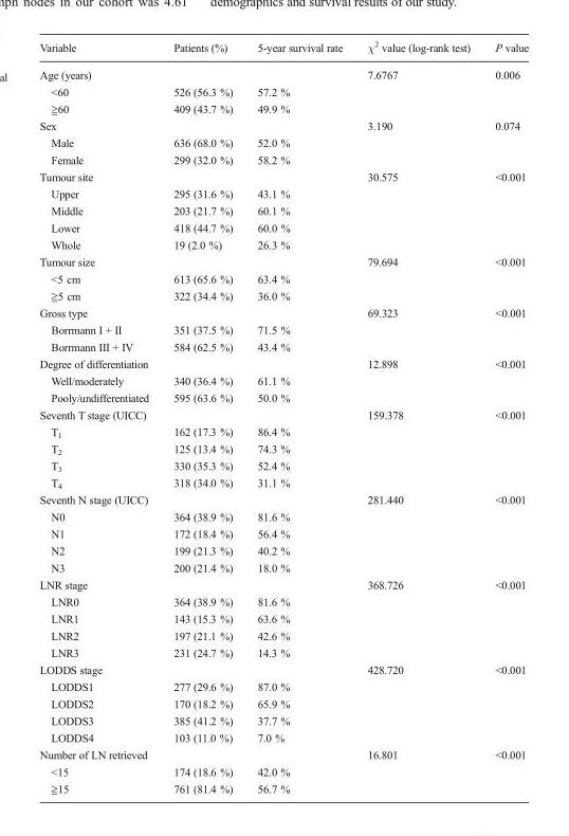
<table><thead><tr><td>Variable</td><td>Patients (%)</td><td>5-year survival rate</td><td>χ<sup>2</sup> value (log-rank test)</td><td>P value</td></tr></thead><tbody><tr><td>Age (years)</td><td></td><td></td><td>7.6767</td><td>0.006</td></tr><tr><td>&lt;60</td><td>526 (56.3 %)</td><td>57.2 %</td><td></td><td></td></tr><tr><td>≧60</td><td>409 (43.7 %)</td><td>49.9 %</td><td></td><td></td></tr><tr><td>Sex</td><td></td><td></td><td>3.190</td><td>0.074</td></tr><tr><td>Male</td><td>636 (68.0 %)</td><td>52.0 %</td><td></td><td></td></tr><tr><td>Female</td><td>299 (32.0 %)</td><td>58.2 %</td><td></td><td></td></tr><tr><td>Tumour site</td><td></td><td></td><td>30.575</td><td>&lt;0.001</td></tr><tr><td>Upper</td><td>295 (31.6 %)</td><td>43.1 %</td><td></td><td></td></tr><tr><td>Middle</td><td>203 (21.7 %)</td><td>60.1 %</td><td></td><td></td></tr><tr><td>Lower</td><td>418 (44.7 %)</td><td>60.0 %</td><td></td><td></td></tr><tr><td>Whole</td><td>19 (2.0 %)</td><td>26.3 %</td><td></td><td></td></tr><tr><td>Tumour size</td><td></td><td></td><td>79.694</td><td>&lt;0.001</td></tr><tr><td>&lt;5 cm</td><td>613 (65.6 %)</td><td>63.4 %</td><td></td><td></td></tr><tr><td>≧5 cm</td><td>322 (34.4 %)</td><td>36.0 %</td><td></td><td></td></tr><tr><td>Gross type</td><td></td><td></td><td>69.323</td><td>&lt;0.001</td></tr><tr><td>Borrmann I + II</td><td>351 (37.5 %)</td><td>71.5 %</td><td></td><td></td></tr><tr><td>Borrmann III + IV</td><td>584 (62.5 %)</td><td>43.4 %</td><td></td><td></td></tr><tr><td>Degree of differentiation</td><td></td><td></td><td>12.898</td><td>&lt;0.001</td></tr><tr><td>Well/moderately</td><td>340 (36.4 %)</td><td>61.1 %</td><td></td><td></td></tr><tr><td>Pooly/undifferentiated</td><td>595 (63.6 %)</td><td>50.0 %</td><td></td><td></td></tr><tr><td>Seventh T stage (UICC)</td><td></td><td></td><td>159.378</td><td>&lt;0.001</td></tr><tr><td>T<sub>1</sub></td><td>162 (17.3 %)</td><td>86.4 %</td><td></td><td></td></tr><tr><td>T<sub>2</sub></td><td>125 (13.4 %)</td><td>74.3 %</td><td></td><td></td></tr><tr><td>T<sub>3</sub></td><td>330 (35.3 %)</td><td>52.4 %</td><td></td><td></td></tr><tr><td>T<sub>4</sub></td><td>318 (34.0 %)</td><td>31.1 %</td><td></td><td></td></tr><tr><td>Seventh N stage (UICC)</td><td></td><td></td><td>281.440</td><td>&lt;0.001</td></tr><tr><td>N0</td><td>364 (38.9 %)</td><td>81.6 %</td><td></td><td></td></tr><tr><td>N1</td><td>172 (18.4 %)</td><td>56.4 %</td><td></td><td></td></tr><tr><td>N2</td><td>199 (21.3 %)</td><td>40.2 %</td><td></td><td></td></tr><tr><td>N3</td><td>200 (21.4 %)</td><td>18.0 %</td><td></td><td></td></tr><tr><td>LNR stage</td><td></td><td></td><td>368.726</td><td>&lt;0.001</td></tr><tr><td>LNR0</td><td>364 (38.9 %)</td><td>81.6 %</td><td></td><td></td></tr><tr><td>LNR1</td><td>143 (15.3 %)</td><td>63.6 %</td><td></td><td></td></tr><tr><td>LNR2</td><td>197 (21.1 %)</td><td>42.6 %</td><td></td><td></td></tr><tr><td>LNR3</td><td>231 (24.7 %)</td><td>14.3 %</td><td></td><td></td></tr><tr><td>LODDS stage</td><td></td><td></td><td>428.720</td><td>&lt;0.001</td></tr><tr><td>LODDS1</td><td>277 (29.6 %)</td><td>87.0 %</td><td></td><td></td></tr><tr><td>LODDS2</td><td>170 (18.2 %)</td><td>65.9 %</td><td></td><td></td></tr><tr><td>LODDS3</td><td>385 (41.2 %)</td><td>37.7 %</td><td></td><td></td></tr><tr><td>LODDS4</td><td>103 (11.0 %)</td><td>7.0 %</td><td></td><td></td></tr><tr><td>Number of LN retrieved</td><td></td><td></td><td>16.801</td><td>&lt;0.001</td></tr><tr><td>&lt;15</td><td>174 (18.6 %)</td><td>42.0 %</td><td></td><td></td></tr><tr><td>≧15</td><td>761 (81.4 %)</td><td>56.7 %</td><td></td><td></td></tr></tbody></table>